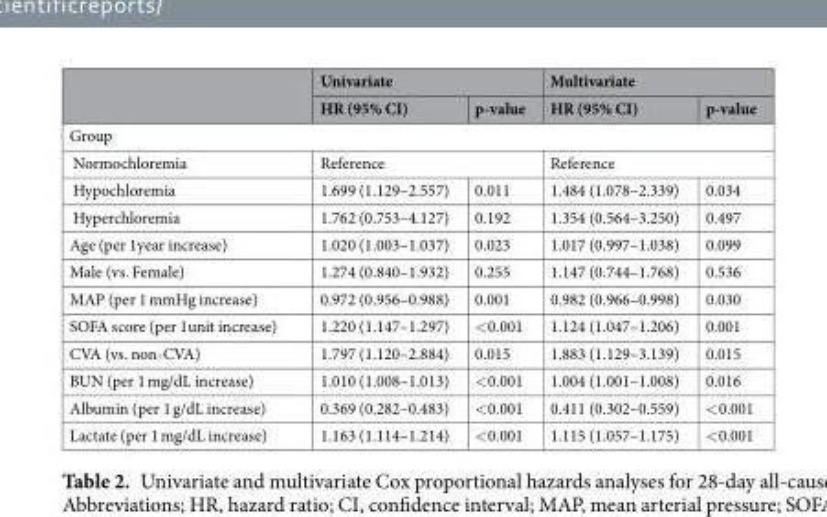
<table><thead><tr><td rowspan="2"></td><td colspan="2">Univariate</td><td colspan="2">Multivariate</td></tr><tr><td>HR (95% CI)</td><td>p-value</td><td>HR (95% CI)</td><td>p-value</td></tr></thead><tbody><tr><td colspan="5">Group</td></tr><tr><td>Normochloremia</td><td colspan="2">Reference</td><td colspan="2">Reference</td></tr><tr><td>Hypochloremia</td><td>1.699 (1.129–2.557)</td><td>0.011</td><td>1.484 (1.078–2.339)</td><td>0.034</td></tr><tr><td>Hyperchloremia</td><td>1.762 (0.753–4.127)</td><td>0.192</td><td>1.354 (0.564–3.250)</td><td>0.497</td></tr><tr><td>Age (per 1year increase)</td><td>1.020 (1.003–1.037)</td><td>0.023</td><td>1.017 (0.997–1.038)</td><td>0.099</td></tr><tr><td>Male (vs. Female)</td><td>1.274 (0.840–1.932)</td><td>0.255</td><td>1.147 (0.744–1.768)</td><td>0.536</td></tr><tr><td>MAP (per 1 mmHg increase)</td><td>0.972 (0.956–0.988)</td><td>0.001</td><td>0.982 (0.966–0.998)</td><td>0.030</td></tr><tr><td>SOFA score (per 1unit increase)</td><td>1.220 (1.147–1.297)</td><td>&lt;0.001</td><td>1.124 (1.047–1.206)</td><td>0.001</td></tr><tr><td>CVA (vs. non-CVA)</td><td>1.797 (1.120–2.884)</td><td>0.015</td><td>1.883 (1.129–3.139)</td><td>0.015</td></tr><tr><td>BUN (per 1 mg/dL increase)</td><td>1.010 (1.008–1.013)</td><td>&lt;0.001</td><td>1.004 (1.001–1.008)</td><td>0.016</td></tr><tr><td>Albumin (per 1 g/dL increase)</td><td>0.369 (0.282–0.483)</td><td>&lt;0.001</td><td>0.411 (0.302–0.559)</td><td>&lt;0.001</td></tr><tr><td>Lactate (per 1 mg/dL increase)</td><td>1.163 (1.114–1.214)</td><td>&lt;0.001</td><td>1.115 (1.057–1.175)</td><td>&lt;0.001</td></tr></tbody></table>